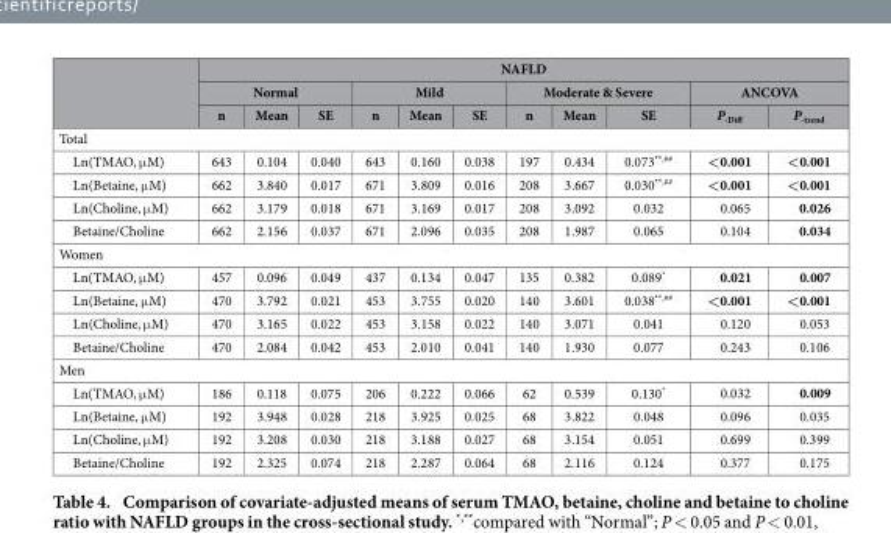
<table><thead><tr><td rowspan="3"></td><td colspan="11">NAFLD</td></tr><tr><td colspan="3">Normal</td><td colspan="3">Mild</td><td colspan="3">Moderate &amp; Severe</td><td colspan="2">ANCOVA</td></tr><tr><td>n</td><td>Mean</td><td>SE</td><td>n</td><td>Mean</td><td>SE</td><td>n</td><td>Mean</td><td>SE</td><td>P<sub>-Diff</sub></td><td>P<sub>-trend</sub></td></tr></thead><tbody><tr><td colspan="12">Total</td></tr><tr><td>Ln(TMAO, μ M)</td><td>643</td><td>0.104</td><td>0.040</td><td>643</td><td>0.160</td><td>0.038</td><td>197</td><td>0.434</td><td>0.073**,##</td><td>&lt;0.001</td><td>&lt;0.001</td></tr><tr><td>Ln(Betaine, μ M)</td><td>662</td><td>3.840</td><td>0.017</td><td>671</td><td>3.809</td><td>0.016</td><td>208</td><td>3.667</td><td>0.030**,##</td><td>&lt;0.001</td><td>&lt;0.001</td></tr><tr><td>Ln(Choline, μ M)</td><td>662</td><td>3.179</td><td>0.018</td><td>671</td><td>3.169</td><td>0.017</td><td>208</td><td>3.092</td><td>0.032</td><td>0.065</td><td>0.026</td></tr><tr><td>Betaine/Choline</td><td>662</td><td>2.156</td><td>0.037</td><td>671</td><td>2.096</td><td>0.035</td><td>208</td><td>1.987</td><td>0.065</td><td>0.104</td><td>0.034</td></tr><tr><td colspan="12">Women</td></tr><tr><td>Ln(TMAO, μ M)</td><td>457</td><td>0.096</td><td>0.049</td><td>437</td><td>0.134</td><td>0.047</td><td>135</td><td>0.382</td><td>0.089*</td><td>0.021</td><td>0.007</td></tr><tr><td>Ln(Betaine, μ M)</td><td>470</td><td>3.792</td><td>0.021</td><td>453</td><td>3.755</td><td>0.020</td><td>140</td><td>3.601</td><td>0.038**,##</td><td>&lt;0.001</td><td>&lt;0.001</td></tr><tr><td>Ln(Choline, μ M)</td><td>470</td><td>3.165</td><td>0.022</td><td>453</td><td>3.158</td><td>0.022</td><td>140</td><td>3.071</td><td>0.041</td><td>0.120</td><td>0.053</td></tr><tr><td>Betaine/Choline</td><td>470</td><td>2.084</td><td>0.042</td><td>453</td><td>2.010</td><td>0.041</td><td>140</td><td>1.930</td><td>0.077</td><td>0.243</td><td>0.106</td></tr><tr><td colspan="12">Men</td></tr><tr><td>Ln(TMAO, μ M)</td><td>186</td><td>0.118</td><td>0.075</td><td>206</td><td>0.222</td><td>0.066</td><td>62</td><td>0.539</td><td>0.130*</td><td>0.032</td><td>0.009</td></tr><tr><td>Ln(Betaine, μ M)</td><td>192</td><td>3.948</td><td>0.028</td><td>218</td><td>3.925</td><td>0.025</td><td>68</td><td>3.822</td><td>0.048</td><td>0.096</td><td>0.035</td></tr><tr><td>Ln(Choline, μ M)</td><td>192</td><td>3.208</td><td>0.030</td><td>218</td><td>3.188</td><td>0.027</td><td>68</td><td>3.154</td><td>0.051</td><td>0.699</td><td>0.399</td></tr><tr><td>Betaine/Choline</td><td>192</td><td>2.325</td><td>0.074</td><td>218</td><td>2.287</td><td>0.064</td><td>68</td><td>2.116</td><td>0.124</td><td>0.377</td><td>0.175</td></tr></tbody></table>